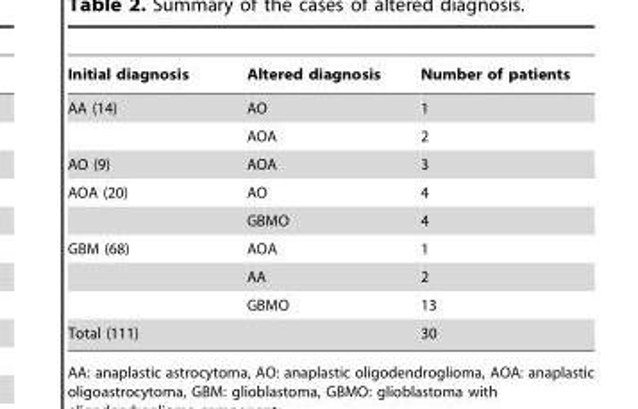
<table><thead><tr><td>Initial diagnosis</td><td>Altered diagnosis</td><td>Number of patients</td></tr></thead><tbody><tr><td rowspan="2">AA (14)</td><td>AO</td><td>1</td></tr><tr><td>AOA</td><td>2</td></tr><tr><td>AO (9)</td><td>AOA</td><td>3</td></tr><tr><td rowspan="2">AOA (20)</td><td>AO</td><td>4</td></tr><tr><td>GBMO</td><td>4</td></tr><tr><td rowspan="3">GBM (68)</td><td>AOA</td><td>1</td></tr><tr><td>AA</td><td>2</td></tr><tr><td>GBMO</td><td>13</td></tr><tr><td>Total (111)</td><td></td><td>30</td></tr></tbody></table>